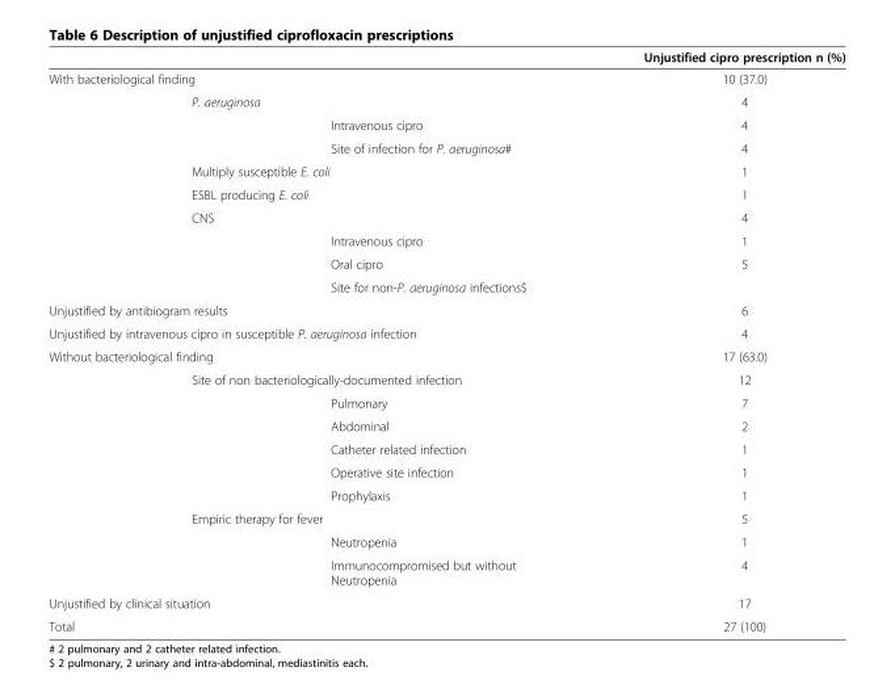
<table><thead><tr><td></td><td></td><td></td><td>Unjustified cipro prescription n (%)</td></tr></thead><tbody><tr><td colspan="3">With bacteriological finding</td><td>10 (37.0)</td></tr><tr><td></td><td colspan="2">P. aeruginosa</td><td>4</td></tr><tr><td></td><td></td><td>Intravenous cipro</td><td>4</td></tr><tr><td></td><td></td><td>Site of infection for P. aeruginosa#</td><td>4</td></tr><tr><td></td><td colspan="2">Multiply susceptible E. coli</td><td>1</td></tr><tr><td></td><td colspan="2">ESBL producing E. coli</td><td>1</td></tr><tr><td></td><td>CNS</td><td></td><td>4</td></tr><tr><td></td><td></td><td>Intravenous cipro</td><td>1</td></tr><tr><td></td><td></td><td>Oral cipro</td><td>5</td></tr><tr><td></td><td></td><td>Site for non-P. aeruginosa infections$</td><td></td></tr><tr><td colspan="3">Unjustified by antibiogram results</td><td>6</td></tr><tr><td colspan="3">Unjustified by intravenous cipro in susceptible P. aeruginosa infection</td><td>4</td></tr><tr><td colspan="3">Without bacteriological finding</td><td>17 (63.0)</td></tr><tr><td></td><td colspan="2">Site of non bacteriologically-documented infection</td><td>12</td></tr><tr><td></td><td></td><td>Pulmonary</td><td>7</td></tr><tr><td></td><td></td><td>Abdominal</td><td>2</td></tr><tr><td></td><td></td><td>Catheter related infection</td><td>1</td></tr><tr><td></td><td></td><td>Operative site infection</td><td>1</td></tr><tr><td></td><td></td><td>Prophylaxis</td><td>1</td></tr><tr><td></td><td colspan="2">Empiric therapy for fever</td><td>5</td></tr><tr><td></td><td></td><td>Neutropenia</td><td>1</td></tr><tr><td></td><td></td><td>Immunocompromised but without Neutropenia</td><td>4</td></tr><tr><td colspan="3">Unjustified by clinical situation</td><td>17</td></tr><tr><td>Total</td><td></td><td></td><td>27 (100)</td></tr></tbody></table>